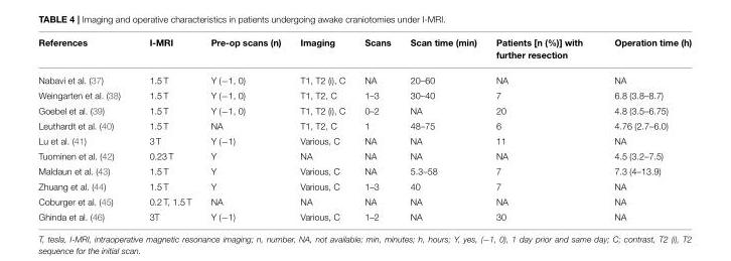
<table><thead><tr><td>References</td><td>I-MRI</td><td>Pre-op scans (n)</td><td>Imaging</td><td>Scans</td><td>Scan time (min)</td><td>Patients [n (%)] with further resection</td><td>Operation time (h)</td></tr></thead><tbody><tr><td>Nabavi et al. (37)</td><td>1.5 T</td><td>Y (−1, 0)</td><td>T1, T2 (i), C</td><td>NA</td><td>20–60</td><td>NA</td><td>NA</td></tr><tr><td>Weingarten et al. (38)</td><td>1.5 T</td><td>Y (−1, 0)</td><td>T1, T2, C</td><td>1–3</td><td>30–40</td><td>7</td><td>6.8 (3.8–8.7)</td></tr><tr><td>Goebel et al. (39)</td><td>1.5 T</td><td>Y (−1, 0)</td><td>T1, T2 (i), C</td><td>0–2</td><td>NA</td><td>20</td><td>4.8 (3.5–6.75)</td></tr><tr><td>Leuthardt et al. (40)</td><td>1.5 T</td><td>NA</td><td>T1, T2, C</td><td>1</td><td>48–75</td><td>6</td><td>4.76 (2.7–6.0)</td></tr><tr><td>Lu et al. (41)</td><td>3 T</td><td>Y (−1)</td><td>Various, C</td><td>NA</td><td>NA</td><td>11</td><td>NA</td></tr><tr><td>Tuominen et al. (42)</td><td>0.23 T</td><td>Y</td><td>NA</td><td>NA</td><td>NA</td><td>NA</td><td>4.5 (3.2–7.5)</td></tr><tr><td>Maldaun et al. (43)</td><td>1.5 T</td><td>Y</td><td>Various, C</td><td>NA</td><td>5.3–58</td><td>7</td><td>7.3 (4–13.9)</td></tr><tr><td>Zhuang et al. (44)</td><td>1.5 T</td><td>Y</td><td>Various, C</td><td>1–3</td><td>40</td><td>7</td><td>NA</td></tr><tr><td>Coburger et al. (45)</td><td>0.2 T, 1.5 T</td><td>NA</td><td>NA</td><td>NA</td><td>NA</td><td>NA</td><td>NA</td></tr><tr><td>Ghinda et al. (46)</td><td>3T</td><td>Y (−1)</td><td>Various, C</td><td>1–2</td><td>NA</td><td>30</td><td>NA</td></tr></tbody></table>